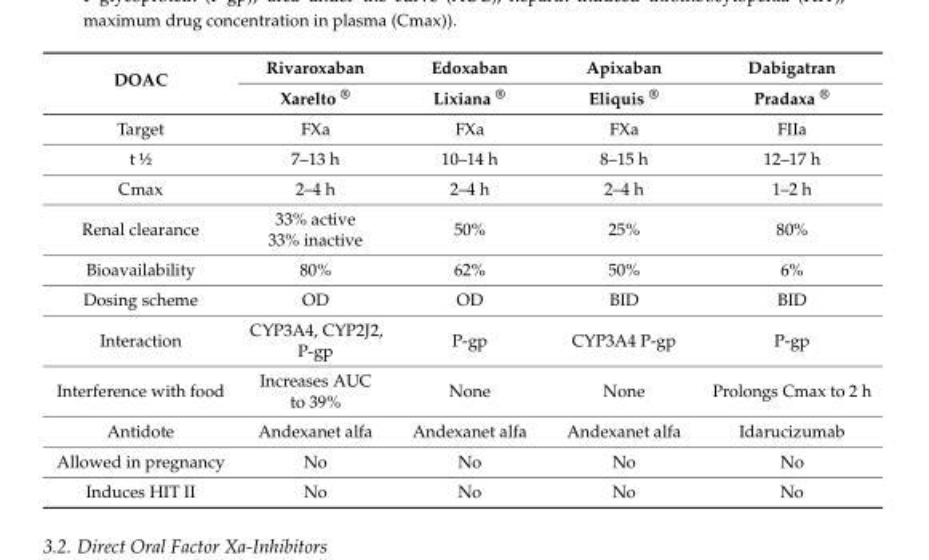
<table><thead><tr><td rowspan="2">DOAC</td><td rowspan="2">Rivaroxaban Xarelto <sup>®</sup></td><td rowspan="2">Edoxaban Lixiana <sup>®</sup></td><td rowspan="2">Apixaban Eliquis <sup>®</sup></td><td rowspan="2">Dabigatran Pradaxa <sup>®</sup></td></tr><tr></tr></thead><tbody><tr><td>Target</td><td>FXa</td><td>FXa</td><td>FXa</td><td>FIIa</td></tr><tr><td>t ½</td><td>7–13 h</td><td>10–14 h</td><td>8–15 h</td><td>12–17 h</td></tr><tr><td>Cmax</td><td>2–4 h</td><td>2–4 h</td><td>2–4 h</td><td>1–2 h</td></tr><tr><td>Renal clearance</td><td>33% active 33% inactive</td><td>50%</td><td>25%</td><td>80%</td></tr><tr><td>Bioavailability</td><td>80%</td><td>62%</td><td>50%</td><td>6%</td></tr><tr><td>Dosing scheme</td><td>OD</td><td>OD</td><td>BID</td><td>BID</td></tr><tr><td>Interaction</td><td>CYP3A4, CYP2J2, P-gp</td><td>P-gp</td><td>CYP3A4 P-gp</td><td>P-gp</td></tr><tr><td>Interference with food</td><td>Increases AUC to 39%</td><td>None</td><td>None</td><td>Prolongs Cmax to 2 h</td></tr><tr><td>Antidote</td><td>Andexanet alfa</td><td>Andexanet alfa</td><td>Andexanet alfa</td><td>Idarucizumab</td></tr><tr><td>Allowed in pregnancy</td><td>No</td><td>No</td><td>No</td><td>No</td></tr><tr><td>Induces HIT II</td><td>No</td><td>No</td><td>No</td><td>No</td></tr></tbody></table>